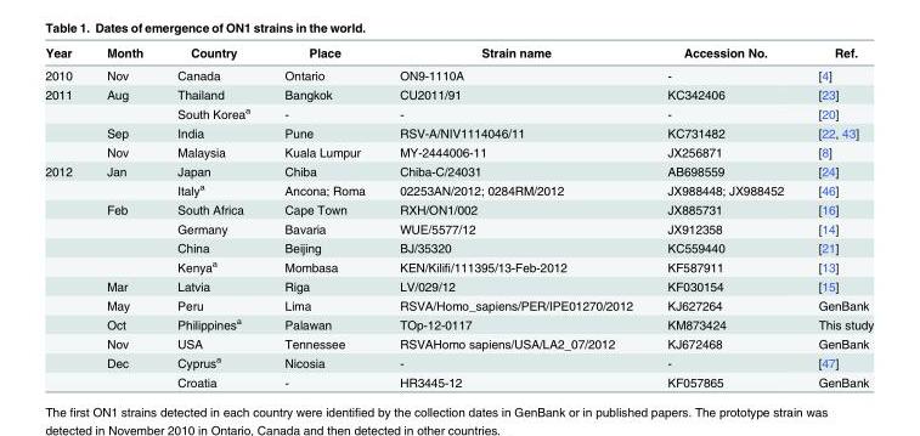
<table><thead><tr><td>Year</td><td>Month</td><td>Country</td><td>Place</td><td>Strain name</td><td>Accession No.</td><td>Ref.</td></tr></thead><tbody><tr><td>2010</td><td>Nov</td><td>Canada</td><td>Ontario</td><td>ON9-1110A</td><td>-</td><td>[4]</td></tr><tr><td rowspan="4">2011</td><td>Aug</td><td>Thailand</td><td>Bangkok</td><td>CU2011/91</td><td>KC342406</td><td>[23]</td></tr><tr><td></td><td>South Korea<sup>a</sup></td><td>-</td><td>-</td><td>-</td><td>[20]</td></tr><tr><td>Sep</td><td>India</td><td>Pune</td><td>RSV-A/NIV1114046/11</td><td>KC731482</td><td>[22, 43]</td></tr><tr><td>Nov</td><td>Malaysia</td><td>Kuala Lumpur</td><td>MY-2444006-11</td><td>JX256871</td><td>[8]</td></tr><tr><td rowspan="12">2012</td><td>Jan</td><td>Japan</td><td>Chiba</td><td>Chiba-C/24031</td><td>AB698559</td><td>[24]</td></tr><tr><td></td><td>Italy<sup>a</sup></td><td>Ancona; Roma</td><td>02253AN/2012; 0284RM/2012</td><td>JX988448; JX988452</td><td>[46]</td></tr><tr><td>Feb</td><td>South Africa</td><td>Cape Town</td><td>RXH/ON1/002</td><td>JX885731</td><td>[16]</td></tr><tr><td></td><td>Germany</td><td>Bavaria</td><td>WUE/5577/12</td><td>JX912358</td><td>[14]</td></tr><tr><td></td><td>China</td><td>Beijing</td><td>BJ/35320</td><td>KC559440</td><td>[21]</td></tr><tr><td></td><td>Kenya<sup>a</sup></td><td>Mombasa</td><td>KEN/Kilifi/111395/13-Feb-2012</td><td>KF587911</td><td>[13]</td></tr><tr><td>Mar</td><td>Latvia</td><td>Riga</td><td>LV/029/12</td><td>KF030154</td><td>[15]</td></tr><tr><td>May</td><td>Peru</td><td>Lima</td><td>RSVA/Homo_sapiens/PER/IPE01270/2012</td><td>KJ627264</td><td>GenBank</td></tr><tr><td>Oct</td><td>Philippines<sup>a</sup></td><td>Palawan</td><td>TOp-12-0117</td><td>KM873424</td><td>This study</td></tr><tr><td>Nov</td><td>USA</td><td>Tennessee</td><td>RSVAHomo sapiens/USA/LA2_07/2012</td><td>KJ672468</td><td>GenBank</td></tr><tr><td>Dec</td><td>Cyprus<sup>a</sup></td><td>Nicosia</td><td>-</td><td>-</td><td>[47]</td></tr><tr><td></td><td>Croatia</td><td>-</td><td>HR3445-12</td><td>KF057865</td><td>GenBank</td></tr></tbody></table>